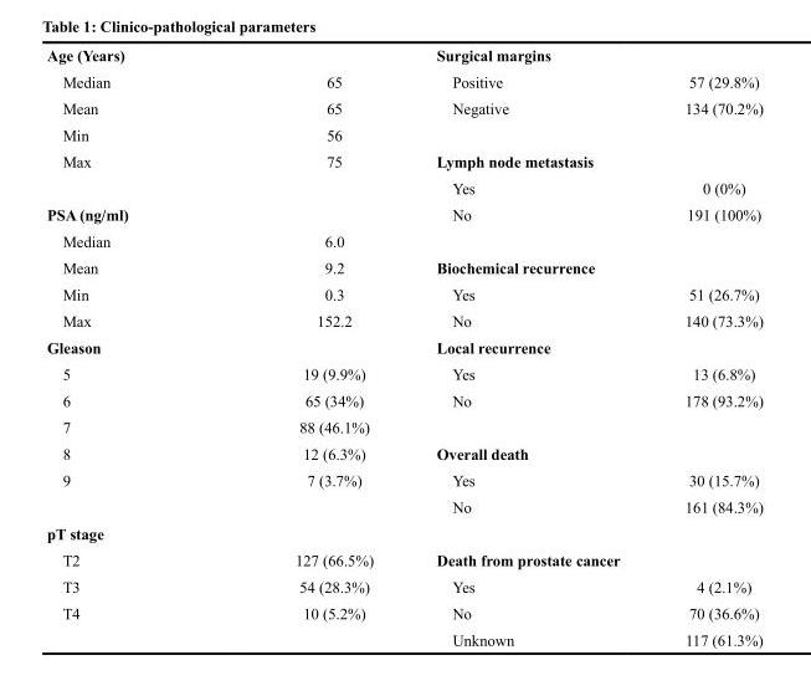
<table><tbody><tr><td>Age (Years)</td><td></td><td>Surgical margins</td><td></td></tr><tr><td>Median</td><td>65</td><td>Positive</td><td>57 (29.8%)</td></tr><tr><td>Mean</td><td>65</td><td>Negative</td><td>134 (70.2%)</td></tr><tr><td>Min</td><td>56</td><td></td><td></td></tr><tr><td rowspan="2">Max</td><td>75</td><td>Lymph node metastasis</td><td></td></tr><tr><td></td><td>Yes</td><td>0 (0%)</td></tr><tr><td>PSA (ng/ml)</td><td></td><td>No</td><td>191 (100%)</td></tr><tr><td>Median</td><td>6.0</td><td></td><td></td></tr><tr><td>Mean</td><td>9.2</td><td>Biochemical recurrence</td><td></td></tr><tr><td>Min</td><td>0.3</td><td>Yes</td><td>51 (26.7%)</td></tr><tr><td>Max</td><td>152.2</td><td>No</td><td>140 (73.3%)</td></tr><tr><td>Gleason</td><td></td><td>Local recurrence</td><td></td></tr><tr><td>5</td><td>19 (9.9%)</td><td>Yes</td><td>13 (6.8%)</td></tr><tr><td>6</td><td>65 (34%)</td><td>No</td><td>178 (93.2%)</td></tr><tr><td>7</td><td>88 (46.1%)</td><td></td><td></td></tr><tr><td>8</td><td>12 (6.3%)</td><td>Overall death</td><td></td></tr><tr><td rowspan="2">9</td><td>7 (3.7%)</td><td>Yes</td><td>30 (15.7%)</td></tr><tr><td></td><td>No</td><td>161 (84.3%)</td></tr><tr><td colspan="4">pT stage</td></tr><tr><td>T2</td><td>127 (66.5%)</td><td>Death from prostate cancer</td><td></td></tr><tr><td>T3</td><td>54 (28.3%)</td><td>Yes</td><td>4 (2.1%)</td></tr><tr><td rowspan="2">T4</td><td>10 (5.2%)</td><td>No</td><td>70 (36.6%)</td></tr><tr><td></td><td>Unknown</td><td>117 (61.3%)</td></tr></tbody></table>